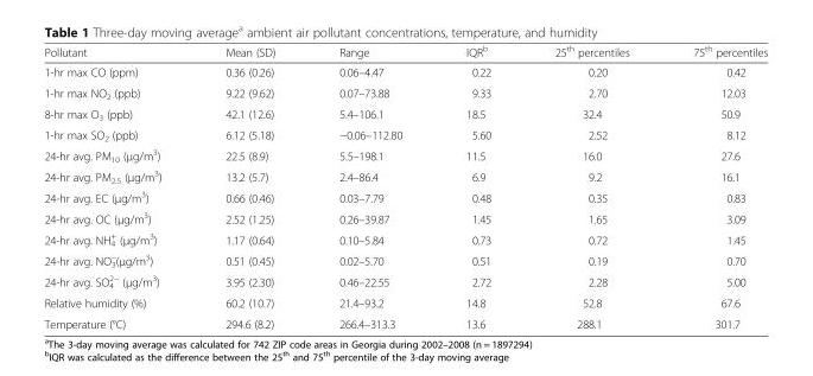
<table><thead><tr><td>Pollutant</td><td>Mean (SD)</td><td>Range</td><td>IQR<sup>b</sup></td><td>25<sup>th</sup> percentiles</td><td>75<sup>th</sup> percentiles</td></tr></thead><tbody><tr><td>1-hr max CO (ppm)</td><td>0.36 (0.26)</td><td>0.06–4.47</td><td>0.22</td><td>0.20</td><td>0.42</td></tr><tr><td>1-hr max NO<sub>2</sub> (ppb)</td><td>9.22 (9.62)</td><td>0.07–73.88</td><td>9.33</td><td>2.70</td><td>12.03</td></tr><tr><td>8-hr max O<sub>3</sub> (ppb)</td><td>42.1 (12.6)</td><td>5.4–106.1</td><td>18.5</td><td>32.4</td><td>50.9</td></tr><tr><td>1-hr max SO<sub>2</sub> (ppb)</td><td>6.12 (5.18)</td><td>−0.06–112.80</td><td>5.60</td><td>2.52</td><td>8.12</td></tr><tr><td>24-hr avg. PM<sub>10</sub> (μg/m<sup>3</sup>)</td><td>22.5 (8.9)</td><td>5.5–198.1</td><td>11.5</td><td>16.0</td><td>27.6</td></tr><tr><td>24-hr avg. PM<sub>2.5</sub> (μg/m<sup>3</sup>)</td><td>13.2 (5.7)</td><td>2.4–86.4</td><td>6.9</td><td>9.2</td><td>16.1</td></tr><tr><td>24-hr avg. EC (μg/m<sup>3</sup>)</td><td>0.66 (0.46)</td><td>0.03–7.79</td><td>0.48</td><td>0.35</td><td>0.83</td></tr><tr><td>24-hr avg. OC (μg/m<sup>3</sup>)</td><td>2.52 (1.25)</td><td>0.26–39.87</td><td>1.45</td><td>1.65</td><td>3.09</td></tr><tr><td>24-hr avg. NH<sub>4</sub> <sup>+</sup> (μg/m<sup>3</sup>)</td><td>1.17 (0.64)</td><td>0.10–5.84</td><td>0.73</td><td>0.72</td><td>1.45</td></tr><tr><td>24-hr avg. NO<sub>3</sub> <sup>–</sup>(μg/m<sup>3</sup>)</td><td>0.51 (0.45)</td><td>0.02–5.70</td><td>0.51</td><td>0.19</td><td>0.70</td></tr><tr><td>24-hr avg. SO<sub>4</sub> <sup>2−</sup> (μg/m<sup>3</sup>)</td><td>3.95 (2.30)</td><td>0.46–22.55</td><td>2.72</td><td>2.28</td><td>5.00</td></tr><tr><td>Relative humidity (%)</td><td>60.2 (10.7)</td><td>21.4–93.2</td><td>14.8</td><td>52.8</td><td>67.6</td></tr><tr><td>Temperature (°C)</td><td>294.6 (8.2)</td><td>266.4–313.3</td><td>13.6</td><td>288.1</td><td>301.7</td></tr></tbody></table>